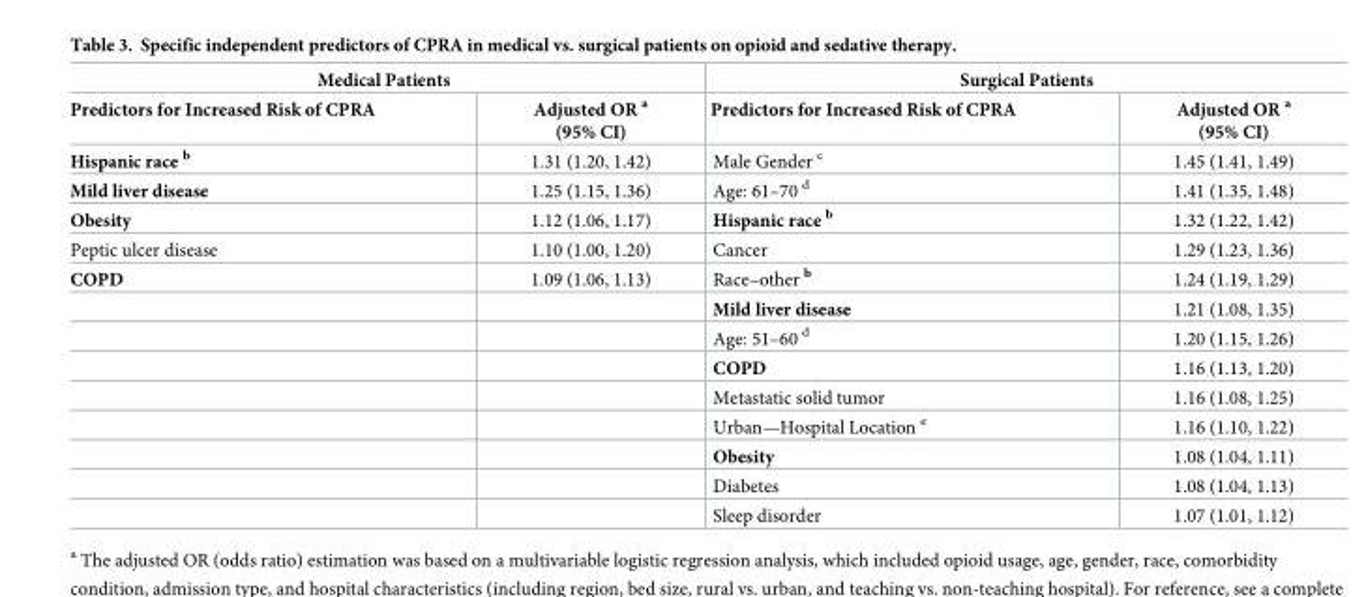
<table><thead><tr><td colspan="2">Medical Patients</td><td colspan="2">Surgical Patients</td></tr><tr><td>Predictors for Increased Risk of CPRA</td><td>Adjusted OR <sup>a</sup> (95% CI)</td><td>Predictors for Increased Risk of CPRA</td><td>Adjusted OR <sup>a</sup> (95% CI)</td></tr></thead><tbody><tr><td>Hispanic race <sup>b</sup></td><td>1.31 (1.20, 1.42)</td><td>Male Gender <sup>c</sup></td><td>1.45 (1.41, 1.49)</td></tr><tr><td>Mild liver disease</td><td>1.25 (1.15, 1.36)</td><td>Age: 61–70 <sup>d</sup></td><td>1.41 (1.35, 1.48)</td></tr><tr><td>Obesity</td><td>1.12 (1.06, 1.17)</td><td>Hispanic race <sup>b</sup></td><td>1.32 (1.22, 1.42)</td></tr><tr><td>Peptic ulcer disease</td><td>1.10 (1.00, 1.20)</td><td>Cancer</td><td>1.29 (1.23, 1.36)</td></tr><tr><td rowspan="9">COPD</td><td>1.09 (1.06, 1.13)</td><td>Race–other <sup>b</sup></td><td>1.24 (1.19, 1.29)</td></tr><tr><td></td><td>Mild liver disease</td><td>1.21 (1.08, 1.35)</td></tr><tr><td></td><td>Age: 51–60 <sup>d</sup></td><td>1.20 (1.15, 1.26)</td></tr><tr><td></td><td>COPD</td><td>1.16 (1.13, 1.20)</td></tr><tr><td></td><td>Metastatic solid tumor</td><td>1.16 (1.08, 1.25)</td></tr><tr><td></td><td>Urban—Hospital Location <sup>e</sup></td><td>1.16 (1.10, 1.22)</td></tr><tr><td></td><td>Obesity</td><td>1.08 (1.04, 1.11)</td></tr><tr><td></td><td>Diabetes</td><td>1.08 (1.04, 1.13)</td></tr><tr><td></td><td>Sleep disorder</td><td>1.07 (1.01, 1.12)</td></tr></tbody></table>